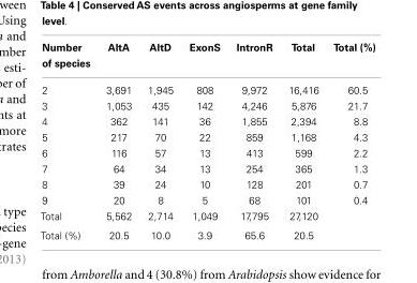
<table><thead><tr><td>Number of species</td><td>AltA</td><td>AltD</td><td>ExonS</td><td>IntronR</td><td>Total</td><td>Total (%)</td></tr></thead><tbody><tr><td>2</td><td>3,691</td><td>1,945</td><td>808</td><td>9,972</td><td>16,416</td><td>60.5</td></tr><tr><td>3</td><td>1,053</td><td>435</td><td>142</td><td>4,246</td><td>5,876</td><td>21.7</td></tr><tr><td>4</td><td>362</td><td>141</td><td>36</td><td>1,855</td><td>2,394</td><td>8.8</td></tr><tr><td>5</td><td>217</td><td>70</td><td>22</td><td>859</td><td>1,168</td><td>4.3</td></tr><tr><td>6</td><td>116</td><td>57</td><td>13</td><td>413</td><td>599</td><td>2.2</td></tr><tr><td>7</td><td>64</td><td>34</td><td>13</td><td>254</td><td>365</td><td>1.3</td></tr><tr><td>8</td><td>39</td><td>24</td><td>10</td><td>128</td><td>201</td><td>0.7</td></tr><tr><td>9</td><td>20</td><td>8</td><td>5</td><td>68</td><td>101</td><td>0.4</td></tr><tr><td>Total</td><td>5,562</td><td>2,714</td><td>1,049</td><td>17,795</td><td>27,120</td><td></td></tr><tr><td>Total (%)</td><td>20.5</td><td>10.0</td><td>3.9</td><td>65.6</td><td>20.5</td><td></td></tr></tbody></table>